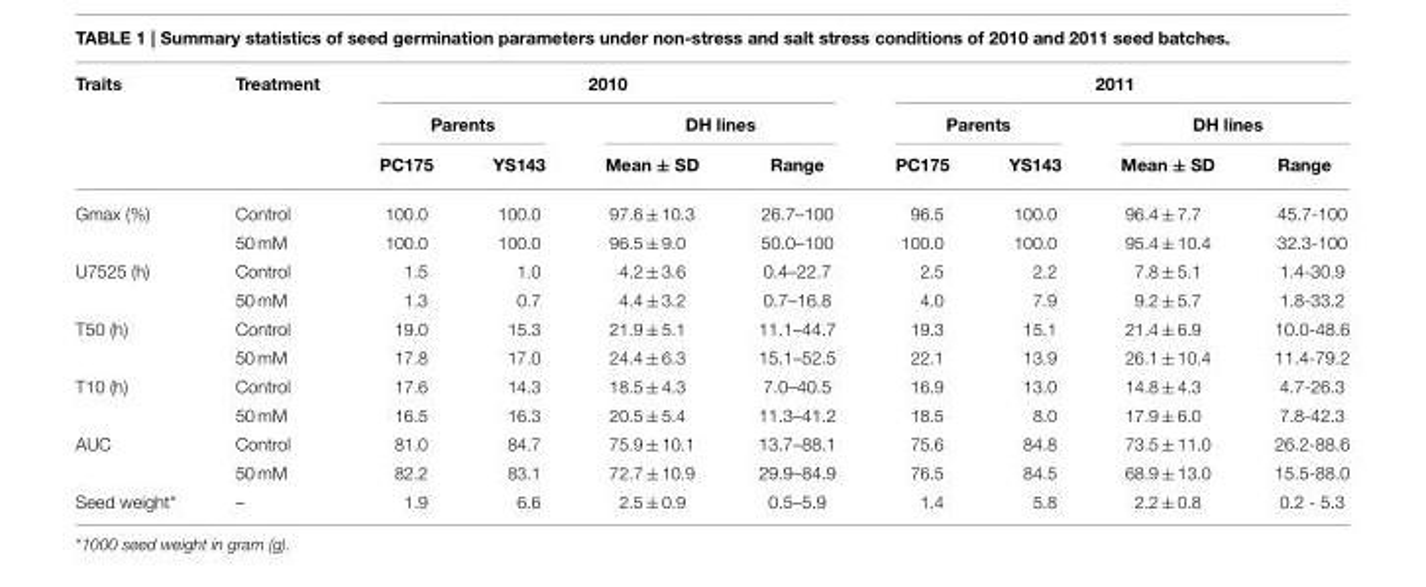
<table><thead><tr><td rowspan="3">Traits</td><td rowspan="3">Treatment</td><td colspan="4">2010</td><td colspan="4">2011</td></tr><tr><td colspan="2">Parents</td><td colspan="2">DH lines</td><td colspan="2">Parents</td><td colspan="2">DH lines</td></tr><tr><td>PC175</td><td>YS143</td><td>Mean ± SD</td><td>Range</td><td>PC175</td><td>YS143</td><td>Mean ± SD</td><td>Range</td></tr></thead><tbody><tr><td rowspan="2">Gmax (%)</td><td>Control</td><td>100.0</td><td>100.0</td><td>97.6 ± 10.3</td><td>26.7–100</td><td>96.5</td><td>100.0</td><td>96.4 ± 7.7</td><td>45.7-100</td></tr><tr><td>50 mM</td><td>100.0</td><td>100.0</td><td>96.5 ± 9.0</td><td>50.0–100</td><td>100.0</td><td>100.0</td><td>95.4 ± 10.4</td><td>32.3-100</td></tr><tr><td rowspan="2">U7525 (h)</td><td>Control</td><td>1.5</td><td>1.0</td><td>4.2 ± 3.6</td><td>0.4–22.7</td><td>2.5</td><td>2.2</td><td>7.8 ± 5.1</td><td>1.4-30.9</td></tr><tr><td>50 mM</td><td>1.3</td><td>0.7</td><td>4.4 ± 3.2</td><td>0.7–16.8</td><td>4.0</td><td>7.9</td><td>9.2 ± 5.7</td><td>1.8-33.2</td></tr><tr><td rowspan="2">T50 (h)</td><td>Control</td><td>19.0</td><td>15.3</td><td>21.9 ± 5.1</td><td>11.1–44.7</td><td>19.3</td><td>15.1</td><td>21.4 ± 6.9</td><td>10.0-48.6</td></tr><tr><td>50 mM</td><td>17.8</td><td>17.0</td><td>24.4 ± 6.3</td><td>15.1–52.5</td><td>22.1</td><td>13.9</td><td>26.1 ± 10.4</td><td>11.4-79.2</td></tr><tr><td rowspan="2">T10 (h)</td><td>Control</td><td>17.6</td><td>14.3</td><td>18.5 ± 4.3</td><td>7.0–40.5</td><td>16.9</td><td>13.0</td><td>14.8 ± 4.3</td><td>4.7-26.3</td></tr><tr><td>50 mM</td><td>16.5</td><td>16.3</td><td>20.5 ± 5.4</td><td>11.3–41.2</td><td>18.5</td><td>8.0</td><td>17.9 ± 6.0</td><td>7.8-42.3</td></tr><tr><td rowspan="2">AUC</td><td>Control</td><td>81.0</td><td>84.7</td><td>75.9 ± 10.1</td><td>13.7–88.1</td><td>75.6</td><td>84.8</td><td>73.5 ± 11.0</td><td>26.2-88.6</td></tr><tr><td>50 mM</td><td>82.2</td><td>83.1</td><td>72.7 ± 10.9</td><td>29.9–84.9</td><td>76.5</td><td>84.5</td><td>68.9 ± 13.0</td><td>15.5-88.0</td></tr><tr><td>Seed weight*</td><td>–</td><td>1.9</td><td>6.6</td><td>2.5 ± 0.9</td><td>0.5–5.9</td><td>1.4</td><td>5.8</td><td>2.2 ± 0.8</td><td>0.2 - 5.3</td></tr></tbody></table>